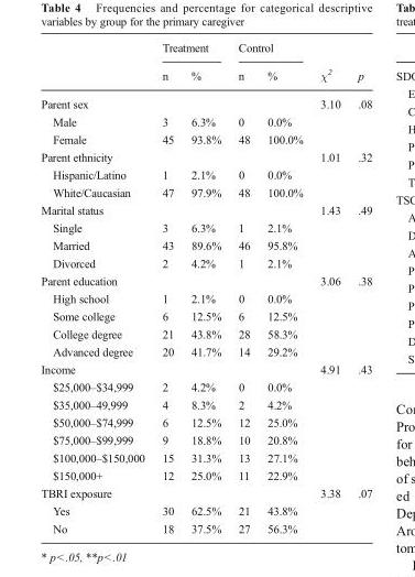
<table><thead><tr><td rowspan="2"></td><td colspan="2">Treatment</td><td colspan="2">Control</td><td rowspan="2">χ<sup>2</sup></td><td rowspan="2">p</td></tr><tr><td>n</td><td>%</td><td>n</td><td>%</td></tr></thead><tbody><tr><td>Parent sex</td><td></td><td></td><td></td><td></td><td>3.10</td><td>.08</td></tr><tr><td>Male</td><td>3</td><td>6.3%</td><td>0</td><td>0.0%</td><td></td><td></td></tr><tr><td>Female</td><td>45</td><td>93.8%</td><td>48</td><td>100.0%</td><td></td><td></td></tr><tr><td>Parent ethnicity</td><td></td><td></td><td></td><td></td><td>1.01</td><td>.32</td></tr><tr><td>Hispanic/Latino</td><td>1</td><td>2.1%</td><td>0</td><td>0.0%</td><td></td><td></td></tr><tr><td>White/Caucasian</td><td>47</td><td>97.9%</td><td>48</td><td>100.0%</td><td></td><td></td></tr><tr><td>Marital status</td><td></td><td></td><td></td><td></td><td>1.43</td><td>.49</td></tr><tr><td>Single</td><td>3</td><td>6.3%</td><td>1</td><td>2.1%</td><td></td><td></td></tr><tr><td>Married</td><td>43</td><td>89.6%</td><td>46</td><td>95.8%</td><td></td><td></td></tr><tr><td>Divorced</td><td>2</td><td>4.2%</td><td>1</td><td>2.1%</td><td></td><td></td></tr><tr><td>Parent education</td><td></td><td></td><td></td><td></td><td>3.06</td><td>.38</td></tr><tr><td>High school</td><td>1</td><td>2.1%</td><td>0</td><td>0.0%</td><td></td><td></td></tr><tr><td>Some college</td><td>6</td><td>12.5%</td><td>6</td><td>12.5%</td><td></td><td></td></tr><tr><td>College degree</td><td>21</td><td>43.8%</td><td>28</td><td>58.3%</td><td></td><td></td></tr><tr><td>Advanced degree</td><td>20</td><td>41.7%</td><td>14</td><td>29.2%</td><td></td><td></td></tr><tr><td>Income</td><td></td><td></td><td></td><td></td><td>4.91</td><td>.43</td></tr><tr><td>$25,000–$34,999</td><td>2</td><td>4.2%</td><td>0</td><td>0.0%</td><td></td><td></td></tr><tr><td>$35,000–49,999</td><td>4</td><td>8.3%</td><td>2</td><td>4.2%</td><td></td><td></td></tr><tr><td>$50,000–$74,999</td><td>6</td><td>12.5%</td><td>12</td><td>25.0%</td><td></td><td></td></tr><tr><td>$75,000–$99,999</td><td>9</td><td>18.8%</td><td>10</td><td>20.8%</td><td></td><td></td></tr><tr><td>$100,000–$150,000</td><td>15</td><td>31.3%</td><td>13</td><td>27.1%</td><td></td><td></td></tr><tr><td>$150,000+</td><td>12</td><td>25.0%</td><td>11</td><td>22.9%</td><td></td><td></td></tr><tr><td>TBRI exposure</td><td></td><td></td><td></td><td></td><td>3.38</td><td>.07</td></tr><tr><td>Yes</td><td>30</td><td>62.5%</td><td>21</td><td>43.8%</td><td></td><td></td></tr><tr><td>No</td><td>18</td><td>37.5%</td><td>27</td><td>56.3%</td><td></td><td></td></tr></tbody></table>